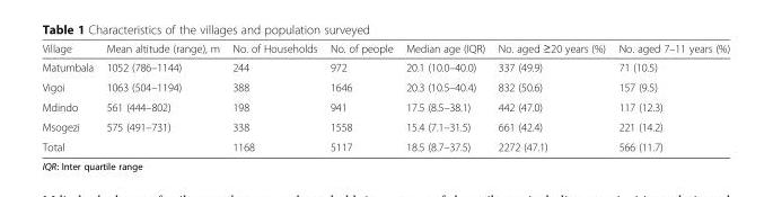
<table><thead><tr><td>Village</td><td>Mean altitude (range), m</td><td>No. of Households</td><td>No. of people</td><td>Median age (IQR)</td><td>No. aged ≥20 years (%)</td><td>No. aged 7–11 years (%)</td></tr></thead><tbody><tr><td>Matumbala</td><td>1052 (786–1144)</td><td>244</td><td>972</td><td>20.1 (10.0–40.0)</td><td>337 (49.9)</td><td>71 (10.5)</td></tr><tr><td>Vigoi</td><td>1063 (504–1194)</td><td>388</td><td>1646</td><td>20.3 (10.5–40.4)</td><td>832 (50.6)</td><td>157 (9.5)</td></tr><tr><td>Mdindo</td><td>561 (444–802)</td><td>198</td><td>941</td><td>17.5 (8.5–38.1)</td><td>442 (47.0)</td><td>117 (12.3)</td></tr><tr><td>Msogezi</td><td>575 (491–731)</td><td>338</td><td>1558</td><td>15.4 (7.1–31.5)</td><td>661 (42.4)</td><td>221 (14.2)</td></tr><tr><td>Total</td><td></td><td>1168</td><td>5117</td><td>18.5 (8.7–37.5)</td><td>2272 (47.1)</td><td>566 (11.7)</td></tr></tbody></table>